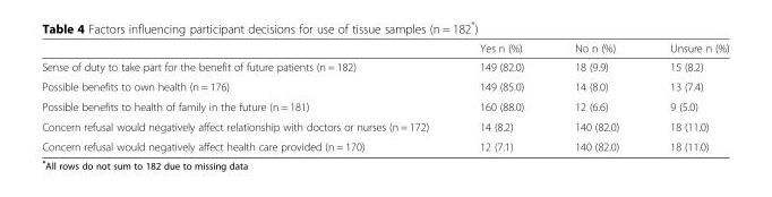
<table><thead><tr><td></td><td>Yes n (%)</td><td>No n (%)</td><td>Unsure n (%)</td></tr></thead><tbody><tr><td>Sense of duty to take part for the benefit of future patients (n = 182)</td><td>149 (82.0)</td><td>18 (9.9)</td><td>15 (8.2)</td></tr><tr><td>Possible benefits to own health (n = 176)</td><td>149 (85.0)</td><td>14 (8.0)</td><td>13 (7.4)</td></tr><tr><td>Possible benefits to health of family in the future (n = 181)</td><td>160 (88.0)</td><td>12 (6.6)</td><td>9 (5.0)</td></tr><tr><td>Concern refusal would negatively affect relationship with doctors or nurses (n = 172)</td><td>14 (8.2)</td><td>140 (82.0)</td><td>18 (11.0)</td></tr><tr><td>Concern refusal would negatively affect health care provided (n = 170)</td><td>12 (7.1)</td><td>140 (82.0)</td><td>18 (11.0)</td></tr></tbody></table>